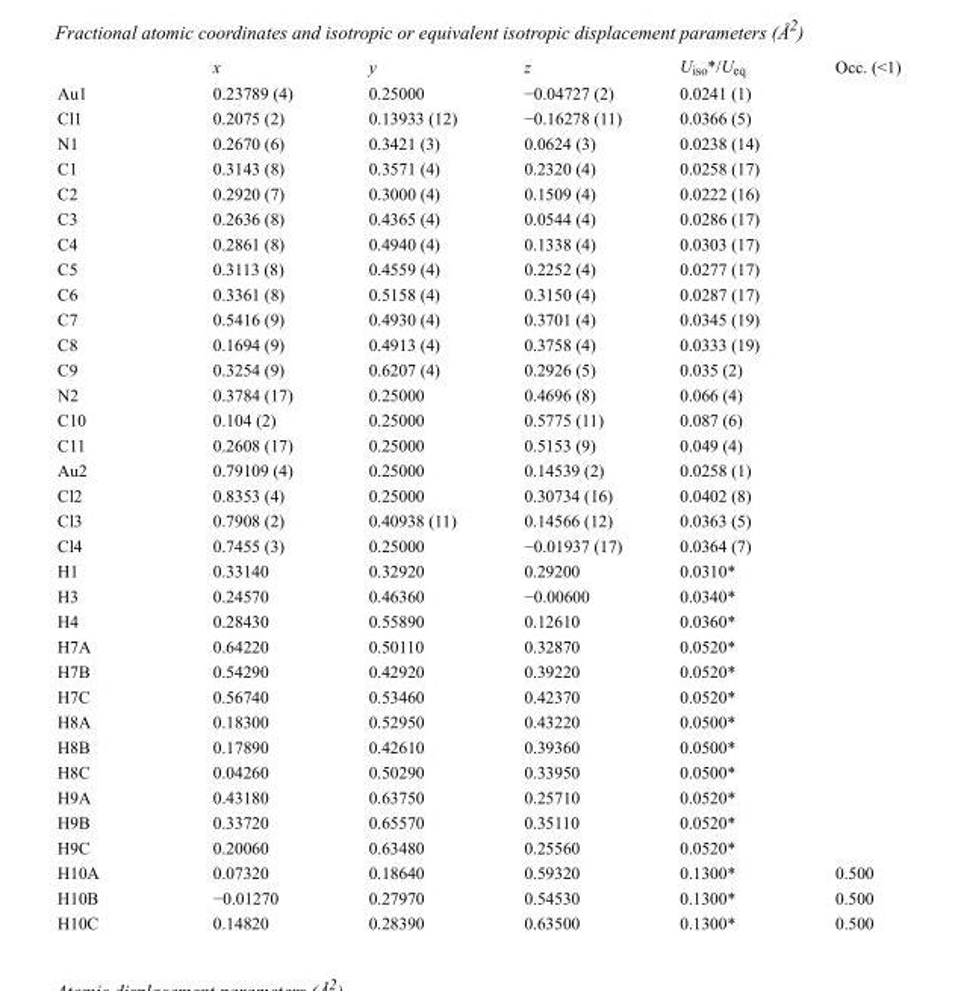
<table><thead><tr><td></td><td>x</td><td>y</td><td>z</td><td>U<sub>iso</sub>*/U<sub>eq</sub></td><td>Occ. (&lt;1)</td></tr></thead><tbody><tr><td>Au1</td><td>0.23789 (4)</td><td>0.25000</td><td>−0.04727 (2)</td><td>0.0241 (1)</td><td></td></tr><tr><td>Cl1</td><td>0.2075 (2)</td><td>0.13933 (12)</td><td>−0.16278 (11)</td><td>0.0366 (5)</td><td></td></tr><tr><td>N1</td><td>0.2670 (6)</td><td>0.3421 (3)</td><td>0.0624 (3)</td><td>0.0238 (14)</td><td></td></tr><tr><td>C1</td><td>0.3143 (8)</td><td>0.3571 (4)</td><td>0.2320 (4)</td><td>0.0258 (17)</td><td></td></tr><tr><td>C2</td><td>0.2920 (7)</td><td>0.3000 (4)</td><td>0.1509 (4)</td><td>0.0222 (16)</td><td></td></tr><tr><td>C3</td><td>0.2636 (8)</td><td>0.4365 (4)</td><td>0.0544 (4)</td><td>0.0286 (17)</td><td></td></tr><tr><td>C4</td><td>0.2861 (8)</td><td>0.4940 (4)</td><td>0.1338 (4)</td><td>0.0303 (17)</td><td></td></tr><tr><td>C5</td><td>0.3113 (8)</td><td>0.4559 (4)</td><td>0.2252 (4)</td><td>0.0277 (17)</td><td></td></tr><tr><td>C6</td><td>0.3361 (8)</td><td>0.5158 (4)</td><td>0.3150 (4)</td><td>0.0287 (17)</td><td></td></tr><tr><td>C7</td><td>0.5416 (9)</td><td>0.4930 (4)</td><td>0.3701 (4)</td><td>0.0345 (19)</td><td></td></tr><tr><td>C8</td><td>0.1694 (9)</td><td>0.4913 (4)</td><td>0.3758 (4)</td><td>0.0333 (19)</td><td></td></tr><tr><td>C9</td><td>0.3254 (9)</td><td>0.6207 (4)</td><td>0.2926 (5)</td><td>0.035 (2)</td><td></td></tr><tr><td>N2</td><td>0.3784 (17)</td><td>0.25000</td><td>0.4696 (8)</td><td>0.066 (4)</td><td></td></tr><tr><td>C10</td><td>0.104 (2)</td><td>0.25000</td><td>0.5775 (11)</td><td>0.087 (6)</td><td></td></tr><tr><td>C11</td><td>0.2608 (17)</td><td>0.25000</td><td>0.5153 (9)</td><td>0.049 (4)</td><td></td></tr><tr><td>Au2</td><td>0.79109 (4)</td><td>0.25000</td><td>0.14539 (2)</td><td>0.0258 (1)</td><td></td></tr><tr><td>Cl2</td><td>0.8353 (4)</td><td>0.25000</td><td>0.30734 (16)</td><td>0.0402 (8)</td><td></td></tr><tr><td>Cl3</td><td>0.7908 (2)</td><td>0.40938 (11)</td><td>0.14566 (12)</td><td>0.0363 (5)</td><td></td></tr><tr><td>Cl4</td><td>0.7455 (3)</td><td>0.25000</td><td>−0.01937 (17)</td><td>0.0364 (7)</td><td></td></tr><tr><td>H1</td><td>0.33140</td><td>0.32920</td><td>0.29200</td><td>0.0310*</td><td></td></tr><tr><td>H3</td><td>0.24570</td><td>0.46360</td><td>−0.00600</td><td>0.0340*</td><td></td></tr><tr><td>H4</td><td>0.28430</td><td>0.55890</td><td>0.12610</td><td>0.0360*</td><td></td></tr><tr><td>H7A</td><td>0.64220</td><td>0.50110</td><td>0.32870</td><td>0.0520*</td><td></td></tr><tr><td>H7B</td><td>0.54290</td><td>0.42920</td><td>0.39220</td><td>0.0520*</td><td></td></tr><tr><td>H7C</td><td>0.56740</td><td>0.53460</td><td>0.42370</td><td>0.0520*</td><td></td></tr><tr><td>H8A</td><td>0.18300</td><td>0.52950</td><td>0.43220</td><td>0.0500*</td><td></td></tr><tr><td>H8B</td><td>0.17890</td><td>0.42610</td><td>0.39360</td><td>0.0500*</td><td></td></tr><tr><td>H8C</td><td>0.04260</td><td>0.50290</td><td>0.33950</td><td>0.0500*</td><td></td></tr><tr><td>H9A</td><td>0.43180</td><td>0.63750</td><td>0.25710</td><td>0.0520*</td><td></td></tr><tr><td>H9B</td><td>0.33720</td><td>0.65570</td><td>0.35110</td><td>0.0520*</td><td></td></tr><tr><td>H9C</td><td>0.20060</td><td>0.63480</td><td>0.25560</td><td>0.0520*</td><td></td></tr><tr><td>H10A</td><td>0.07320</td><td>0.18640</td><td>0.59320</td><td>0.1300*</td><td>0.500</td></tr><tr><td>H10B</td><td>−0.01270</td><td>0.27970</td><td>0.54530</td><td>0.1300*</td><td>0.500</td></tr><tr><td>H10C</td><td>0.14820</td><td>0.28390</td><td>0.63500</td><td>0.1300*</td><td>0.500</td></tr></tbody></table>